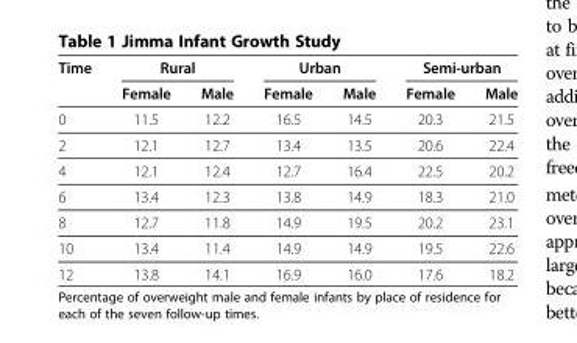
<table><thead><tr><td rowspan="2">Time</td><td colspan="2">Rural</td><td colspan="2">Urban</td><td colspan="2">Semi-urban</td></tr><tr><td>Female</td><td>Male</td><td>Female</td><td>Male</td><td>Female</td><td>Male</td></tr></thead><tbody><tr><td>0</td><td>11.5</td><td>12.2</td><td>16.5</td><td>14.5</td><td>20.3</td><td>21.5</td></tr><tr><td>2</td><td>12.1</td><td>12.7</td><td>13.4</td><td>13.5</td><td>20.6</td><td>22.4</td></tr><tr><td>4</td><td>12.1</td><td>12.4</td><td>12.7</td><td>16.4</td><td>22.5</td><td>20.2</td></tr><tr><td>6</td><td>13.4</td><td>12.3</td><td>13.8</td><td>14.9</td><td>18.3</td><td>21.0</td></tr><tr><td>8</td><td>12.7</td><td>11.8</td><td>14.9</td><td>19.5</td><td>20.2</td><td>23.1</td></tr><tr><td>10</td><td>13.4</td><td>11.4</td><td>14.9</td><td>14.9</td><td>19.5</td><td>22.6</td></tr><tr><td>12</td><td>13.8</td><td>14.1</td><td>16.9</td><td>16.0</td><td>17.6</td><td>18.2</td></tr></tbody></table>